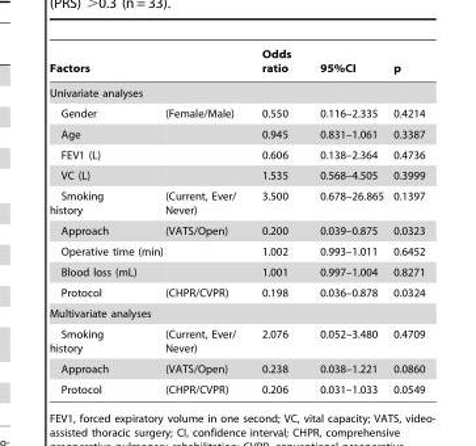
<table><thead><tr><td colspan="2">Factors</td><td>Odds ratio</td><td>95%CI</td><td>p</td></tr><tr><td colspan="5">Univariate analyses</td></tr><tr><td>Gender</td><td>(Female/Male)</td><td>0.550</td><td>0.116–2.335</td><td>0.4214</td></tr></thead><tbody><tr><td>Age</td><td></td><td>0.945</td><td>0.831–1.061</td><td>0.3387</td></tr><tr><td>FEV1 (L)</td><td></td><td>0.606</td><td>0.138–2.364</td><td>0.4736</td></tr><tr><td>VC (L)</td><td></td><td>1.535</td><td>0.568–4.505</td><td>0.3999</td></tr><tr><td>Smoking history</td><td>(Current, Ever/ Never)</td><td>3.500</td><td>0.678–26.865</td><td>0.1397</td></tr><tr><td>Approach</td><td>(VATS/Open)</td><td>0.200</td><td>0.039–0.875</td><td>0.0323</td></tr><tr><td>Operative time (min)</td><td></td><td>1.002</td><td>0.993–1.011</td><td>0.6452</td></tr><tr><td>Blood loss (mL)</td><td></td><td>1.001</td><td>0.997–1.004</td><td>0.8271</td></tr><tr><td>Protocol</td><td>(CHPR/CVPR)</td><td>0.198</td><td>0.036–0.878</td><td>0.0324</td></tr><tr><td colspan="5">Multivariate analyses</td></tr><tr><td>Smoking history</td><td>(Current, Ever/ Never)</td><td>2.076</td><td>0.052–3.480</td><td>0.4709</td></tr><tr><td>Approach</td><td>(VATS/Open)</td><td>0.238</td><td>0.038–1.221</td><td>0.0860</td></tr><tr><td>Protocol</td><td>(CHPR/CVPR)</td><td>0.206</td><td>0.031–1.033</td><td>0.0549</td></tr></tbody></table>